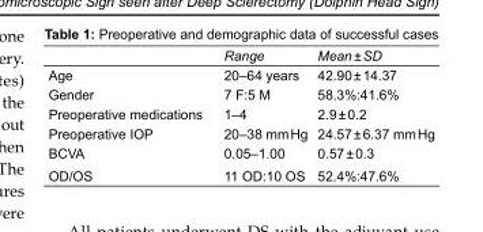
<table><thead><tr><td></td><td>Range</td><td>Mean ± SD</td></tr></thead><tbody><tr><td>Age</td><td>20–64 years</td><td>42.90 ± 14.37</td></tr><tr><td>Gender</td><td>7 F:5 M</td><td>58.3%:41.6%</td></tr><tr><td>Preoperative medications</td><td>1–4</td><td>2.9 ± 0.2</td></tr><tr><td>Preoperative IOP</td><td>20–38 mm Hg</td><td>24.57 ± 6.37 mm Hg</td></tr><tr><td>BCVA</td><td>0.05–1.00</td><td>0.57 ± 0.3</td></tr><tr><td>OD/OS</td><td>11 OD:10 OS</td><td>52.4%:47.6%</td></tr></tbody></table>